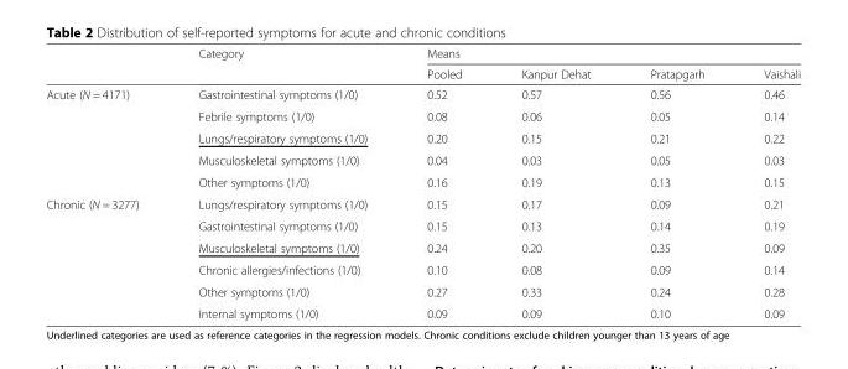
<table><thead><tr><td rowspan="2"></td><td rowspan="2">Category</td><td colspan="4">Means</td></tr><tr><td>Pooled</td><td>Kanpur Dehat</td><td>Pratapgarh</td><td>Vaishali</td></tr></thead><tbody><tr><td rowspan="5">Acute (N = 4171)</td><td>Gastrointestinal symptoms (1/0)</td><td>0.52</td><td>0.57</td><td>0.56</td><td>0.46</td></tr><tr><td>Febrile symptoms (1/0)</td><td>0.08</td><td>0.06</td><td>0.05</td><td>0.14</td></tr><tr><td>Lungs/respiratory symptoms (1/0)</td><td>0.20</td><td>0.15</td><td>0.21</td><td>0.22</td></tr><tr><td>Musculoskeletal symptoms (1/0)</td><td>0.04</td><td>0.03</td><td>0.05</td><td>0.03</td></tr><tr><td>Other symptoms (1/0)</td><td>0.16</td><td>0.19</td><td>0.13</td><td>0.15</td></tr><tr><td rowspan="6">Chronic (N = 3277)</td><td>Lungs/respiratory symptoms (1/0)</td><td>0.15</td><td>0.17</td><td>0.09</td><td>0.21</td></tr><tr><td>Gastrointestinal symptoms (1/0)</td><td>0.15</td><td>0.13</td><td>0.14</td><td>0.19</td></tr><tr><td>Musculoskeletal symptoms (1/0)</td><td>0.24</td><td>0.20</td><td>0.35</td><td>0.09</td></tr><tr><td>Chronic allergies/infections (1/0)</td><td>0.10</td><td>0.08</td><td>0.09</td><td>0.14</td></tr><tr><td>Other symptoms (1/0)</td><td>0.27</td><td>0.33</td><td>0.24</td><td>0.28</td></tr><tr><td>Internal symptoms (1/0)</td><td>0.09</td><td>0.09</td><td>0.10</td><td>0.09</td></tr></tbody></table>